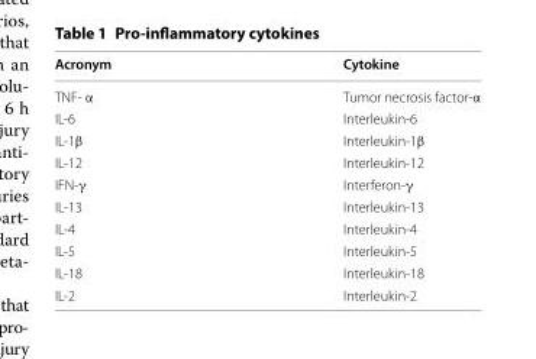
<table><thead><tr><td>Acronym</td><td>Cytokine</td></tr></thead><tbody><tr><td>TNF- α</td><td>Tumor necrosis factor-α</td></tr><tr><td>IL-6</td><td>Interleukin-6</td></tr><tr><td>IL-1β</td><td>Interleukin-1β</td></tr><tr><td>IL-12</td><td>Interleukin-12</td></tr><tr><td>IFN-γ</td><td>Interferon-γ</td></tr><tr><td>IL-13</td><td>Interleukin-13</td></tr><tr><td>IL-4</td><td>Interleukin-4</td></tr><tr><td>IL-5</td><td>Interleukin-5</td></tr><tr><td>IL-18</td><td>Interleukin-18</td></tr><tr><td>IL-2</td><td>Interleukin-2</td></tr></tbody></table>